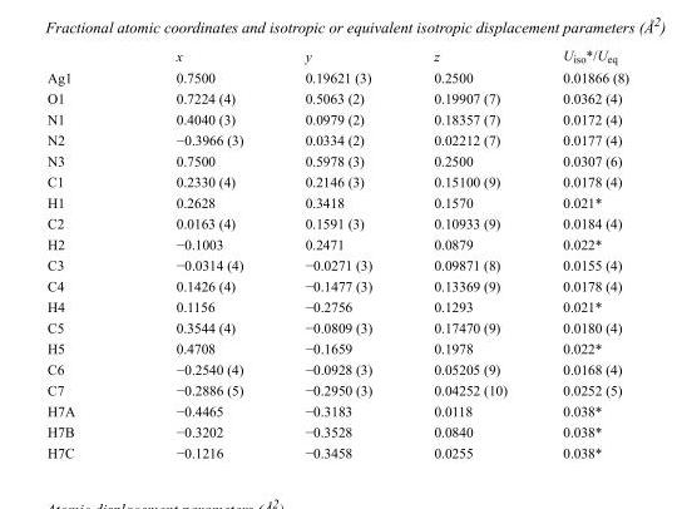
<table><thead><tr><td></td><td>x</td><td>y</td><td>z</td><td>U<sub>iso</sub>*/U<sub>eq</sub></td></tr></thead><tbody><tr><td>Ag1</td><td>0.7500</td><td>0.19621 (3)</td><td>0.2500</td><td>0.01866 (8)</td></tr><tr><td>O1</td><td>0.7224 (4)</td><td>0.5063 (2)</td><td>0.19907 (7)</td><td>0.0362 (4)</td></tr><tr><td>N1</td><td>0.4040 (3)</td><td>0.0979 (2)</td><td>0.18357 (7)</td><td>0.0172 (4)</td></tr><tr><td>N2</td><td>−0.3966 (3)</td><td>0.0334 (2)</td><td>0.02212 (7)</td><td>0.0177 (4)</td></tr><tr><td>N3</td><td>0.7500</td><td>0.5978 (3)</td><td>0.2500</td><td>0.0307 (6)</td></tr><tr><td>C1</td><td>0.2330 (4)</td><td>0.2146 (3)</td><td>0.15100 (9)</td><td>0.0178 (4)</td></tr><tr><td>H1</td><td>0.2628</td><td>0.3418</td><td>0.1570</td><td>0.021*</td></tr><tr><td>C2</td><td>0.0163 (4)</td><td>0.1591 (3)</td><td>0.10933 (9)</td><td>0.0184 (4)</td></tr><tr><td>H2</td><td>−0.1003</td><td>0.2471</td><td>0.0879</td><td>0.022*</td></tr><tr><td>C3</td><td>−0.0314 (4)</td><td>−0.0271 (3)</td><td>0.09871 (8)</td><td>0.0155 (4)</td></tr><tr><td>C4</td><td>0.1426 (4)</td><td>−0.1477 (3)</td><td>0.13369 (9)</td><td>0.0178 (4)</td></tr><tr><td>H4</td><td>0.1156</td><td>−0.2756</td><td>0.1293</td><td>0.021*</td></tr><tr><td>C5</td><td>0.3544 (4)</td><td>−0.0809 (3)</td><td>0.17470 (9)</td><td>0.0180 (4)</td></tr><tr><td>H5</td><td>0.4708</td><td>−0.1659</td><td>0.1978</td><td>0.022*</td></tr><tr><td>C6</td><td>−0.2540 (4)</td><td>−0.0928 (3)</td><td>0.05205 (9)</td><td>0.0168 (4)</td></tr><tr><td>C7</td><td>−0.2886 (5)</td><td>−0.2950 (3)</td><td>0.04252 (10)</td><td>0.0252 (5)</td></tr><tr><td>H7A</td><td>−0.4465</td><td>−0.3183</td><td>0.0118</td><td>0.038*</td></tr><tr><td>H7B</td><td>−0.3202</td><td>−0.3528</td><td>0.0840</td><td>0.038*</td></tr><tr><td>H7C</td><td>−0.1216</td><td>−0.3458</td><td>0.0255</td><td>0.038*</td></tr></tbody></table>